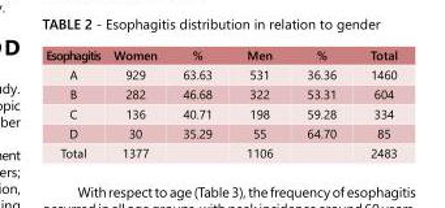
<table><tbody><tr><td>Esophagitis</td><td>Women</td><td>%</td><td>Men</td><td>%</td><td>Total</td></tr><tr><td>A</td><td>929</td><td>63.63</td><td>531</td><td>36.36</td><td>1460</td></tr><tr><td>B</td><td>282</td><td>46.68</td><td>322</td><td>53.31</td><td>604</td></tr><tr><td>C</td><td>136</td><td>40.71</td><td>198</td><td>59.28</td><td>334</td></tr><tr><td>D</td><td>30</td><td>35.29</td><td>55</td><td>64.70</td><td>85</td></tr><tr><td>Total</td><td>1377</td><td></td><td>1106</td><td></td><td>2483</td></tr></tbody></table>